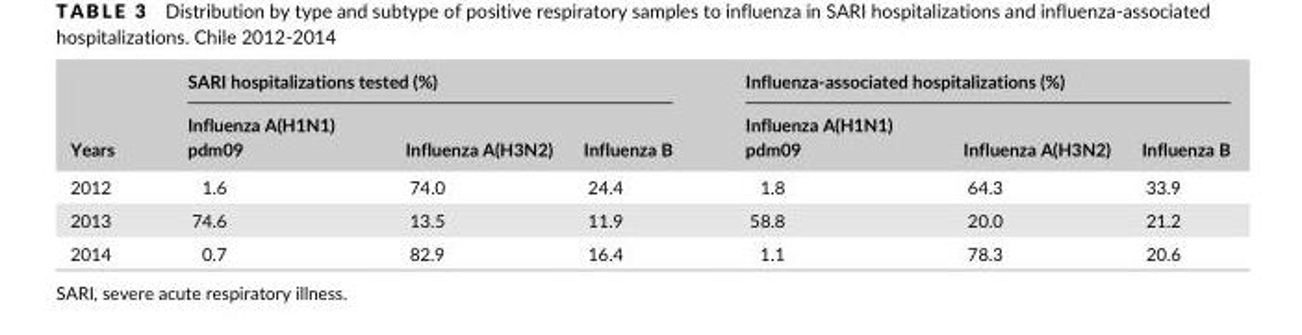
<table><thead><tr><td rowspan="2">Years</td><td colspan="3">SARI hospitalizations tested (%)</td><td colspan="3">Influenza- associated hospitalizations (%)</td></tr><tr><td>Influenza A(H1N1) pdm09</td><td>Influenza A(H3N2)</td><td>Influenza B</td><td>Influenza A(H1N1) pdm09</td><td>Influenza A(H3N2)</td><td>Influenza B</td></tr></thead><tbody><tr><td>2012</td><td>1.6</td><td>74.0</td><td>24.4</td><td>1.8</td><td>64.3</td><td>33.9</td></tr><tr><td>2013</td><td>74.6</td><td>13.5</td><td>11.9</td><td>58.8</td><td>20.0</td><td>21.2</td></tr><tr><td>2014</td><td>0.7</td><td>82.9</td><td>16.4</td><td>1.1</td><td>78.3</td><td>20.6</td></tr></tbody></table>